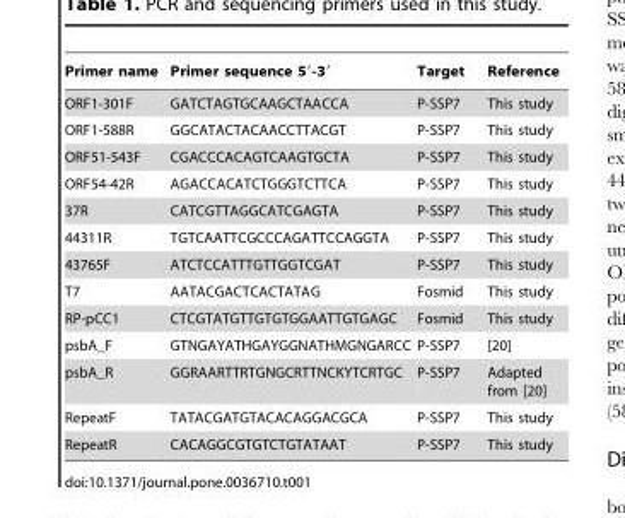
<table><thead><tr><td>Primer name</td><td>Primer sequence 5′-3′</td><td>Target</td><td>Reference</td></tr></thead><tbody><tr><td>ORF1-301F</td><td>GATCTAGTGCAAGCTAACCA</td><td>P-SSP7</td><td>This study</td></tr><tr><td>ORF1-588R</td><td>GGCATACTACAACCTTACGT</td><td>P-SSP7</td><td>This study</td></tr><tr><td>ORF51-543F</td><td>CGACCCACAGTCAAGTGCTA</td><td>P-SSP7</td><td>This study</td></tr><tr><td>ORF54-42R</td><td>AGACCACATCTGGGTCTTCA</td><td>P-SSP7</td><td>This study</td></tr><tr><td>37R</td><td>CATCGTTAGGCATCGAGTA</td><td>P-SSP7</td><td>This study</td></tr><tr><td>44311R</td><td>TGTCAATTCGCCCAGATTCCAGGTA</td><td>P-SSP7</td><td>This study</td></tr><tr><td>43765F</td><td>ATCTCCATTTGTTGGTCGAT</td><td>P-SSP7</td><td>This study</td></tr><tr><td>T7</td><td>AATACGACTCACTATAG</td><td>Fosmid</td><td>This study</td></tr><tr><td>RP-pCC1</td><td>CTCGTATGTTGTGTGGAATTGTGAGC</td><td>Fosmid</td><td>This study</td></tr><tr><td>psbA_F</td><td>GTNGAYATHGAYGGNATHMGNGARCC</td><td>P-SSP7</td><td>[20]</td></tr><tr><td>psbA_R</td><td>GGRAARTTRTGNGCRTTNCKYTCRTGC</td><td>P-SSP7</td><td>Adapted from [20]</td></tr><tr><td>RepeatF</td><td>TATACGATGTACACAGGACGCA</td><td>P-SSP7</td><td>This study</td></tr><tr><td>RepeatR</td><td>CACAGGCGTGTCTGTATAAT</td><td>P-SSP7</td><td>This study</td></tr></tbody></table>